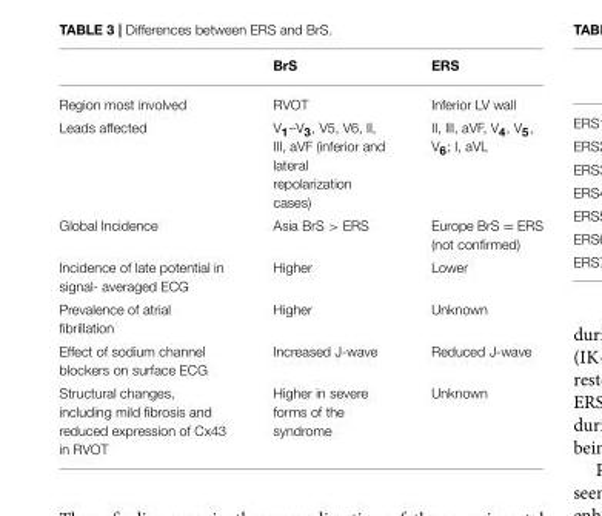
<table><thead><tr><td></td><td>BrS</td><td>ERS</td></tr></thead><tbody><tr><td>Region most involved</td><td>RVOT</td><td>Inferior LV wall</td></tr><tr><td>Leads affected</td><td>V<sub>1</sub>–V<sub>3</sub>, V5, V6, II, III, aVF (inferior and lateral repolarization cases)</td><td>II, III, aVF, V<sub>4</sub>, V<sub>5</sub>, V<sub>6</sub>; I, aVL</td></tr><tr><td>Global Incidence</td><td>Asia BrS &gt; ERS</td><td>Europe BrS = ERS (not confirmed)</td></tr><tr><td>Incidence of late potential in signal- averaged ECG</td><td>Higher</td><td>Lower</td></tr><tr><td>Prevalence of atrial fibrillation</td><td>Higher</td><td>Unknown</td></tr><tr><td>Effect of sodium channel blockers on surface ECG</td><td>Increased J-wave</td><td>Reduced J-wave</td></tr><tr><td>Structural changes, including mild fibrosis and reduced expression of Cx43 in RVOT</td><td>Higher in severe forms of the syndrome</td><td>Unknown</td></tr></tbody></table>